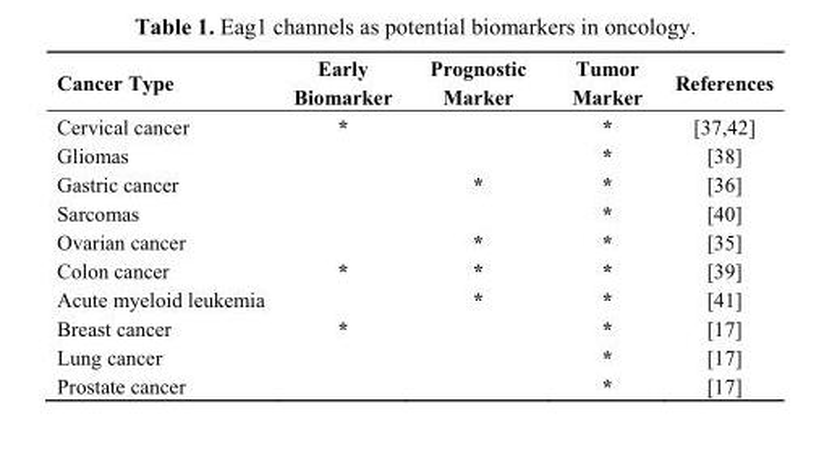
<table><thead><tr><td>Cancer Type</td><td>Early Biomarker</td><td>Prognostic Marker</td><td>Tumor Marker</td><td>References</td></tr></thead><tbody><tr><td>Cervical cancer</td><td>*</td><td></td><td>*</td><td>[37,42]</td></tr><tr><td>Gliomas</td><td></td><td></td><td>*</td><td>[38]</td></tr><tr><td>Gastric cancer</td><td></td><td>*</td><td>*</td><td>[36]</td></tr><tr><td>Sarcomas</td><td></td><td></td><td>*</td><td>[40]</td></tr><tr><td>Ovarian cancer</td><td></td><td>*</td><td>*</td><td>[35]</td></tr><tr><td>Colon cancer</td><td>*</td><td>*</td><td>*</td><td>[39]</td></tr><tr><td>Acute myeloid leukemia</td><td></td><td>*</td><td>*</td><td>[41]</td></tr><tr><td>Breast cancer</td><td>*</td><td></td><td>*</td><td>[17]</td></tr><tr><td>Lung cancer</td><td></td><td></td><td>*</td><td>[17]</td></tr><tr><td>Prostate cancer</td><td></td><td></td><td>*</td><td>[17]</td></tr></tbody></table>